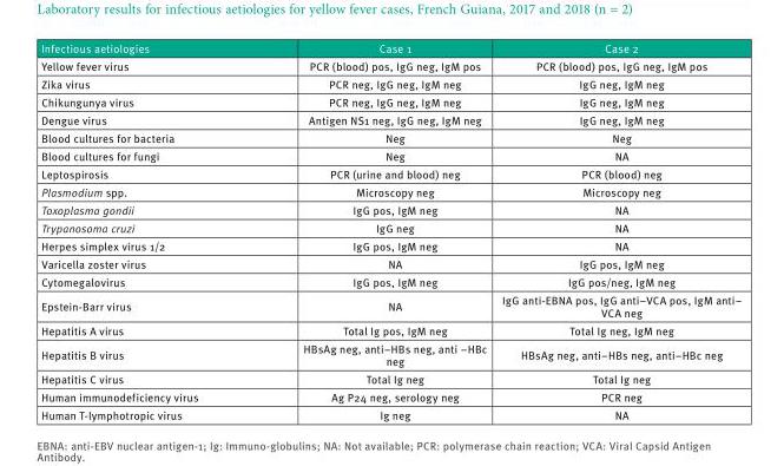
<table><thead><tr><td>Infectious aetiologies</td><td>Case 1</td><td>Case 2</td></tr></thead><tbody><tr><td>Yellow fever virus</td><td>PCR (blood) pos, IgG neg, IgM pos</td><td>PCR (blood) pos, IgG neg, IgM pos</td></tr><tr><td>Zika virus</td><td>PCR neg, IgG neg, IgM neg</td><td>IgG neg, IgM neg</td></tr><tr><td>Chikungunya virus</td><td>PCR neg, IgG neg, IgM neg</td><td>IgG neg, IgM neg</td></tr><tr><td>Dengue virus</td><td>Antigen NS1 neg, IgG neg, IgM neg</td><td>IgG neg, IgM neg</td></tr><tr><td>Blood cultures for bacteria</td><td>Neg</td><td>Neg</td></tr><tr><td>Blood cultures for fungi</td><td>Neg</td><td>NA</td></tr><tr><td>Leptospirosis</td><td>PCR (urine and blood) neg</td><td>PCR (blood) neg</td></tr><tr><td>Plasmodium spp.</td><td>Microscopy neg</td><td>Microscopy neg</td></tr><tr><td>Toxoplasma gondii</td><td>IgG pos, IgM neg</td><td>NA</td></tr><tr><td>Trypanosoma cruzi</td><td>IgG neg</td><td>NA</td></tr><tr><td>Herpes simplex virus 1/2</td><td>IgG pos, IgM neg</td><td>NA</td></tr><tr><td>Varicella zoster virus</td><td>NA</td><td>IgG pos, IgM neg</td></tr><tr><td>Cytomegalovirus</td><td>IgG pos, IgM neg</td><td>IgG pos/neg, IgM neg</td></tr><tr><td>Epstein-Barr virus</td><td>NA</td><td>IgG anti-EBNA pos, IgG anti–VCA pos, IgM anti– VCA neg</td></tr><tr><td>Hepatitis A virus</td><td>Total Ig pos, IgM neg</td><td>Total Ig neg, IgM neg</td></tr><tr><td>Hepatitis B virus</td><td>HBsAg neg, anti–HBs neg, anti –HBc neg</td><td>HBsAg neg, anti–HBs neg, anti–HBc neg</td></tr><tr><td>Hepatitis C virus</td><td>Total Ig neg</td><td>Total Ig neg</td></tr><tr><td>Human immunodeficiency virus</td><td>Ag P24 neg, serology neg</td><td>PCR neg</td></tr><tr><td>Human T-lymphotropic virus</td><td>Ig neg</td><td>NA</td></tr></tbody></table>